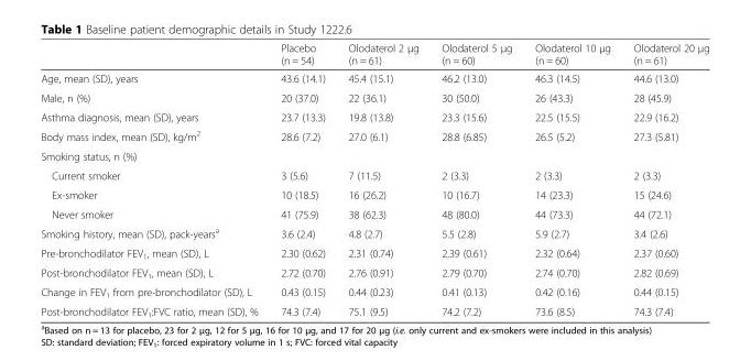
<table><thead><tr><td></td><td>Placebo (n = 54)</td><td>Olodaterol 2 μg (n = 61)</td><td>Olodaterol 5 μg (n = 60)</td><td>Olodaterol 10 μg (n = 60)</td><td>Olodaterol 20 μg (n = 61)</td></tr></thead><tbody><tr><td>Age, mean (SD), years</td><td>43.6 (14.1)</td><td>45.4 (15.1)</td><td>46.2 (13.0)</td><td>46.3 (14.5)</td><td>44.6 (13.0)</td></tr><tr><td>Male, n (%)</td><td>20 (37.0)</td><td>22 (36.1)</td><td>30 (50.0)</td><td>26 (43.3)</td><td>28 (45.9)</td></tr><tr><td>Asthma diagnosis, mean (SD), years</td><td>23.7 (13.3)</td><td>19.8 (13.8)</td><td>23.3 (15.6)</td><td>22.5 (15.5)</td><td>22.9 (16.2)</td></tr><tr><td>Body mass index, mean (SD), kg/m<sup>2</sup></td><td>28.6 (7.2)</td><td>27.0 (6.1)</td><td>28.8 (6.85)</td><td>26.5 (5.2)</td><td>27.3 (5.81)</td></tr><tr><td colspan="6">Smoking status, n (%)</td></tr><tr><td>Current smoker</td><td>3 (5.6)</td><td>7 (11.5)</td><td>2 (3.3)</td><td>2 (3.3)</td><td>2 (3.3)</td></tr><tr><td>Ex-smoker</td><td>10 (18.5)</td><td>16 (26.2)</td><td>10 (16.7)</td><td>14 (23.3)</td><td>15 (24.6)</td></tr><tr><td>Never smoker</td><td>41 (75.9)</td><td>38 (62.3)</td><td>48 (80.0)</td><td>44 (73.3)</td><td>44 (72.1)</td></tr><tr><td>Smoking history, mean (SD), pack-years<sup>a</sup></td><td>3.6 (2.4)</td><td>4.8 (2.7)</td><td>5.5 (2.8)</td><td>5.9 (2.7)</td><td>3.4 (2.6)</td></tr><tr><td>Pre-bronchodilator FEV<sub>1</sub>, mean (SD), L</td><td>2.30 (0.62)</td><td>2.31 (0.74)</td><td>2.39 (0.61)</td><td>2.32 (0.64)</td><td>2.37 (0.60)</td></tr><tr><td>Post-bronchodilator FEV<sub>1</sub>, mean (SD), L</td><td>2.72 (0.70)</td><td>2.76 (0.91)</td><td>2.79 (0.70)</td><td>2.74 (0.70)</td><td>2.82 (0.69)</td></tr><tr><td>Change in FEV<sub>1</sub> from pre-bronchodilator (SD), L</td><td>0.43 (0.15)</td><td>0.44 (0.23)</td><td>0.41 (0.13)</td><td>0.42 (0.16)</td><td>0.44 (0.15)</td></tr><tr><td>Post-bronchodilator FEV<sub>1</sub>:FVC ratio, mean (SD), %</td><td>74.3 (7.4)</td><td>75.1 (9.5)</td><td>74.2 (7.2)</td><td>73.6 (8.5)</td><td>74.3 (7.4)</td></tr></tbody></table>